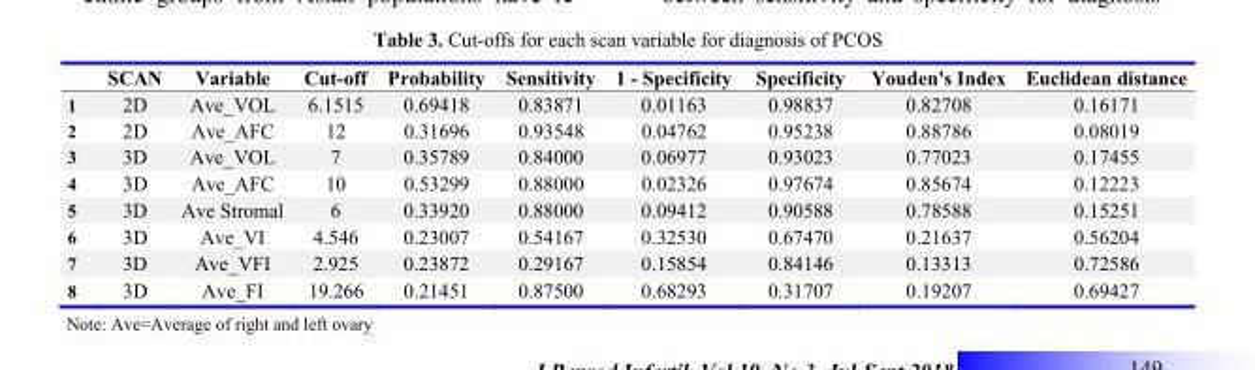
<table><thead><tr><td></td><td>SCAN</td><td>Variable</td><td>Cut-off</td><td>Probability</td><td>Sensitivity</td><td>1 - Specificity</td><td>Specificity</td><td>Youden&#x27;s Index</td><td>Euclidean distance</td></tr></thead><tbody><tr><td>1</td><td>2D</td><td>Ave_VOL</td><td>6.1515</td><td>0.69418</td><td>0.83871</td><td>0.01163</td><td>0.98837</td><td>0.82708</td><td>0.16171</td></tr><tr><td>2</td><td>2D</td><td>Ave_AFC</td><td>12</td><td>0.31696</td><td>0.93548</td><td>0.04762</td><td>0.95238</td><td>0.88786</td><td>0.08019</td></tr><tr><td>3</td><td>3D</td><td>Ave_VOL</td><td>7</td><td>0.35789</td><td>0.84000</td><td>0.06977</td><td>0.93023</td><td>0.77023</td><td>0.17455</td></tr><tr><td>4</td><td>3D</td><td>Ave_AFC</td><td>10</td><td>0.53299</td><td>0.88000</td><td>0.02326</td><td>0.97674</td><td>0.85674</td><td>0.12223</td></tr><tr><td>5</td><td>3D</td><td>Ave Stromal</td><td>6</td><td>0.33920</td><td>0.88000</td><td>0.09412</td><td>0.90588</td><td>0.78588</td><td>0.15251</td></tr><tr><td>6</td><td>3D</td><td>Ave_VI</td><td>4.546</td><td>0.23007</td><td>0.54167</td><td>0.32530</td><td>0.67470</td><td>0.21637</td><td>0.56204</td></tr><tr><td>7</td><td>3D</td><td>Ave_VFI</td><td>2.925</td><td>0.23872</td><td>0.29167</td><td>0.15854</td><td>0.84146</td><td>0.13313</td><td>0.72586</td></tr><tr><td>8</td><td>3D</td><td>Ave_FI</td><td>19.266</td><td>0.21451</td><td>0.87500</td><td>0.68293</td><td>0.31707</td><td>0.19207</td><td>0.69427</td></tr></tbody></table>